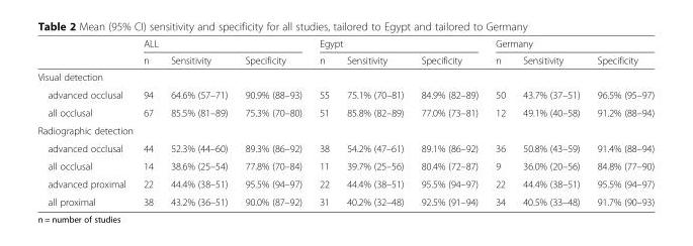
<table><thead><tr><td rowspan="2"></td><td colspan="3">ALL</td><td colspan="3">Egypt</td><td colspan="3">Germany</td></tr><tr><td>n</td><td>Sensitivity</td><td>Specificity</td><td>n</td><td>Sensitivity</td><td>Specificity</td><td>n</td><td>Sensitivity</td><td>Specificity</td></tr></thead><tbody><tr><td colspan="10">Visual detection</td></tr><tr><td>advanced occlusal</td><td>94</td><td>64.6% (57–71)</td><td>90.9% (88–93)</td><td>55</td><td>75.1% (70–81)</td><td>84.9% (82–89)</td><td>50</td><td>43.7% (37–51)</td><td>96.5% (95–97)</td></tr><tr><td>all occlusal</td><td>67</td><td>85.5% (81–89)</td><td>75.3% (70–80)</td><td>51</td><td>85.8% (82–89)</td><td>77.0% (73–81)</td><td>12</td><td>49.1% (40–58)</td><td>91.2% (88–94)</td></tr><tr><td colspan="10">Radiographic detection</td></tr><tr><td>advanced occlusal</td><td>44</td><td>52.3% (44–60)</td><td>89.3% (86–92)</td><td>38</td><td>54.2% (47–61)</td><td>89.1% (86–92)</td><td>36</td><td>50.8% (43–59)</td><td>91.4% (88–94)</td></tr><tr><td>all occlusal</td><td>14</td><td>38.6% (25–54)</td><td>77.8% (70–84)</td><td>11</td><td>39.7% (25–56)</td><td>80.4% (72–87)</td><td>9</td><td>36.0% (20–56)</td><td>84.8% (77–90)</td></tr><tr><td>advanced proximal</td><td>22</td><td>44.4% (38–51)</td><td>95.5% (94–97)</td><td>22</td><td>44.4% (38–51)</td><td>95.5% (94–97)</td><td>22</td><td>44.4% (38–51)</td><td>95.5% (94–97)</td></tr><tr><td>all proximal</td><td>38</td><td>43.2% (36–51)</td><td>90.0% (87–92)</td><td>31</td><td>40.2% (32–48)</td><td>92.5% (91–94)</td><td>34</td><td>40.5% (33–48)</td><td>91.7% (90–93)</td></tr></tbody></table>